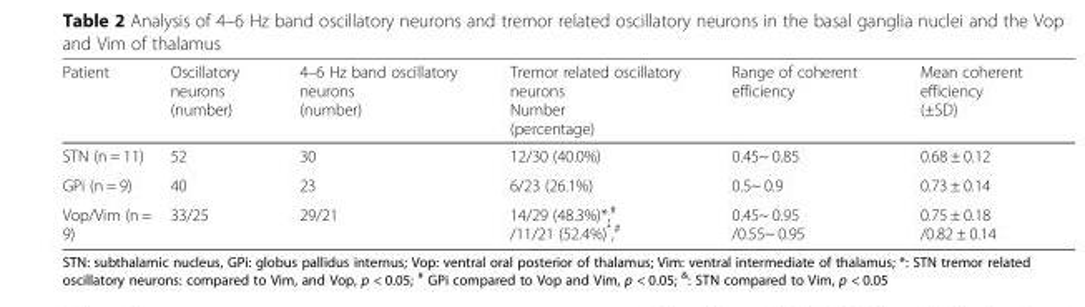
<table><thead><tr><td>Patient</td><td>Oscillatory neurons (number)</td><td>4–6 Hz band oscillatory neurons (number)</td><td>Tremor related oscillatory neurons Number (percentage)</td><td>Range of coherent efficiency</td><td>Mean coherent efficiency (±SD)</td></tr></thead><tbody><tr><td>STN (n = 11)</td><td>52</td><td>30</td><td>12/30 (40.0%)</td><td>0.45~ 0.85</td><td>0.68 ± 0.12</td></tr><tr><td>GPi (n = 9)</td><td>40</td><td>23</td><td>6/23 (26.1%)</td><td>0.5~ 0.9</td><td>0.73 ± 0.14</td></tr><tr><td>Vop/Vim (n = 9)</td><td>33/25</td><td>29/21</td><td>14/29 (48.3%)*,<sup>#</sup> /11/21 (52.4%)*,<sup>#</sup></td><td>0.45~ 0.95 /0.55~ 0.95</td><td>0.75 ± 0.18 /0.82 ± 0.14</td></tr></tbody></table>